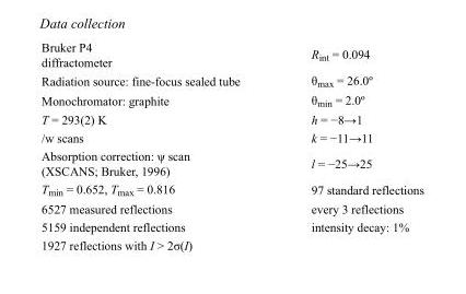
<table><tbody><tr><td>Bruker P4 diffractometer</td><td>R<sub>int</sub> = 0.094</td></tr><tr><td>Radiation source: fine-focus sealed tube</td><td>θ<sub>max</sub> = 26.0º</td></tr><tr><td>Monochromator: graphite</td><td>θ<sub>min</sub> = 2.0º</td></tr><tr><td>T = 293(2) K</td><td>h = −8→1</td></tr><tr><td>/w scans</td><td>k = −11→11</td></tr><tr><td>Absorption correction: ψ scan (XSCANS; Bruker, 1996)</td><td>l = −25→25</td></tr><tr><td>T<sub>min</sub> = 0.652, T<sub>max</sub> = 0.816</td><td>97 standard reflections</td></tr><tr><td>6527 measured reflections</td><td>every 3 reflections</td></tr><tr><td>5159 independent reflections</td><td>intensity decay: 1%</td></tr><tr><td>1927 reflections with I &gt; 2σ(I)</td><td></td></tr></tbody></table>